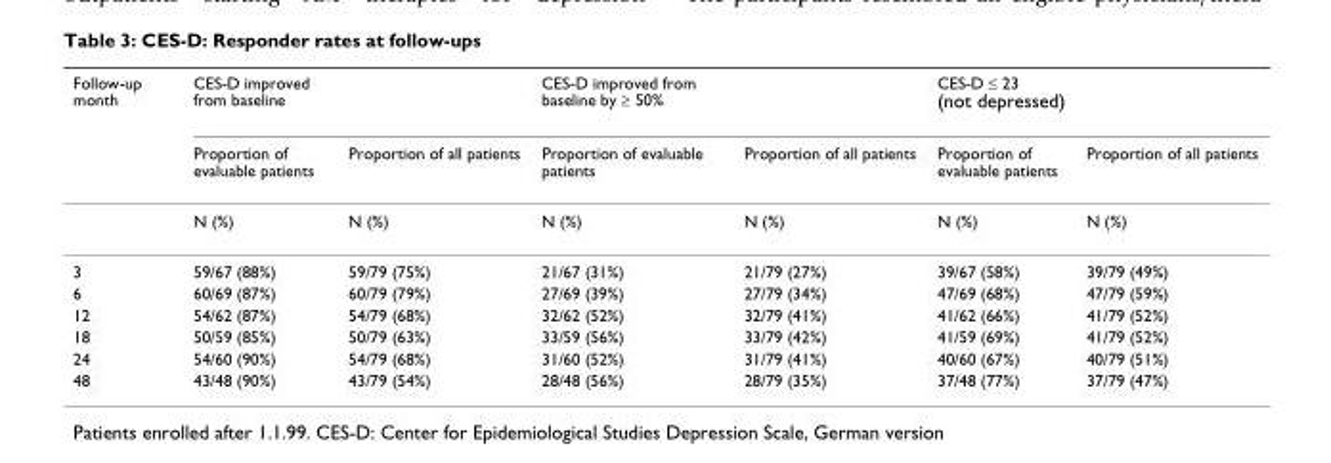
<table><thead><tr><td rowspan="2">Follow-up month</td><td rowspan="2">CES-D improved from baseline Proportion of evaluable patients</td><td rowspan="2">Proportion of all patients</td><td rowspan="2">CES-D improved from baseline by ≥ 50% Proportion of evaluable patients</td><td rowspan="2">Proportion of all patients</td><td rowspan="2">CES-D ≤ 23 (not depressed) Proportion of evaluable patients</td><td rowspan="2">Proportion of all patients</td></tr><tr></tr></thead><tbody><tr><td></td><td>N (%)</td><td>N (%)</td><td>N (%)</td><td>N (%)</td><td>N (%)</td><td>N (%)</td></tr><tr><td>3</td><td>59/67 (88%)</td><td>59/79 (75%)</td><td>21/67 (31%)</td><td>21/79 (27%)</td><td>39/67 (58%)</td><td>39/79 (49%)</td></tr><tr><td>6</td><td>60/69 (87%)</td><td>60/79 (79%)</td><td>27/69 (39%)</td><td>27/79 (34%)</td><td>47/69 (68%)</td><td>47/79 (59%)</td></tr><tr><td>12</td><td>54/62 (87%)</td><td>54/79 (68%)</td><td>32/62 (52%)</td><td>32/79 (41%)</td><td>41/62 (66%)</td><td>41/79 (52%)</td></tr><tr><td>18</td><td>50/59 (85%)</td><td>50/79 (63%)</td><td>33/59 (56%)</td><td>33/79 (42%)</td><td>41/59 (69%)</td><td>41/79 (52%)</td></tr><tr><td>24</td><td>54/60 (90%)</td><td>54/79 (68%)</td><td>31/60 (52%)</td><td>31/79 (41%)</td><td>40/60 (67%)</td><td>40/79 (51%)</td></tr><tr><td>48</td><td>43/48 (90%)</td><td>43/79 (54%)</td><td>28/48 (56%)</td><td>28/79 (35%)</td><td>37/48 (77%)</td><td>37/79 (47%)</td></tr></tbody></table>